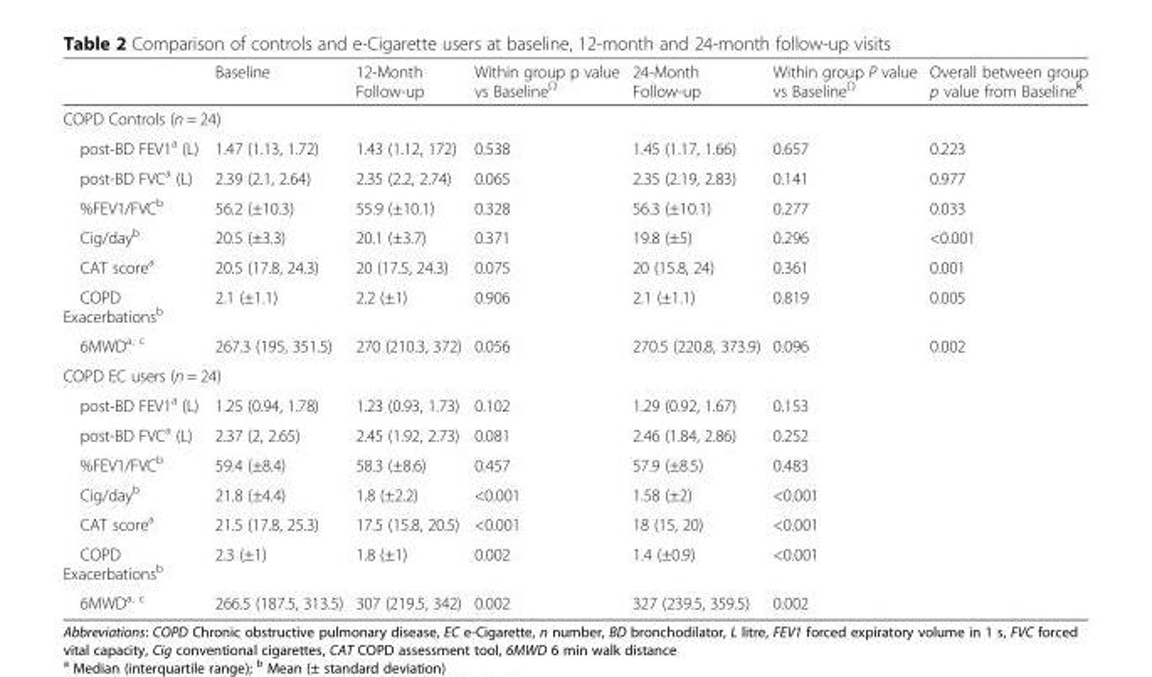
<table><thead><tr><td></td><td>Baseline</td><td>12-Month Follow-up</td><td>Within group p value vs Baseline<sup>Ω</sup></td><td>24-Month Follow-up</td><td>Within group P value vs Baseline<sup>Ω</sup></td><td>Overall between group p value from Baseline<sup>ƙ</sup></td></tr></thead><tbody><tr><td colspan="7">COPD Controls (n = 24)</td></tr><tr><td>post-BD FEV1<sup>a</sup> (L)</td><td>1.47 (1.13, 1.72)</td><td>1.43 (1.12, 172)</td><td>0.538</td><td>1.45 (1.17, 1.66)</td><td>0.657</td><td>0.223</td></tr><tr><td>post-BD FVC<sup>a</sup> (L)</td><td>2.39 (2.1, 2.64)</td><td>2.35 (2.2, 2.74)</td><td>0.065</td><td>2.35 (2.19, 2.83)</td><td>0.141</td><td>0.977</td></tr><tr><td>%FEV1/FVC<sup>b</sup></td><td>56.2 (±10.3)</td><td>55.9 (±10.1)</td><td>0.328</td><td>56.3 (±10.1)</td><td>0.277</td><td>0.033</td></tr><tr><td>Cig/day<sup>b</sup></td><td>20.5 (±3.3)</td><td>20.1 (±3.7)</td><td>0.371</td><td>19.8 (±5)</td><td>0.296</td><td>&lt;0.001</td></tr><tr><td>CAT score<sup>a</sup></td><td>20.5 (17.8, 24.3)</td><td>20 (17.5, 24.3)</td><td>0.075</td><td>20 (15.8, 24)</td><td>0.361</td><td>0.001</td></tr><tr><td>COPD Exacerbations<sup>b</sup></td><td>2.1 (±1.1)</td><td>2.2 (±1)</td><td>0.906</td><td>2.1 (±1.1)</td><td>0.819</td><td>0.005</td></tr><tr><td>6MWD<sup>a, c</sup></td><td>267.3 (195, 351.5)</td><td>270 (210.3, 372)</td><td>0.056</td><td>270.5 (220.8, 373.9)</td><td>0.096</td><td>0.002</td></tr><tr><td colspan="7">COPD EC users (n = 24)</td></tr><tr><td>post-BD FEV1<sup>a</sup> (L)</td><td>1.25 (0.94, 1.78)</td><td>1.23 (0.93, 1.73)</td><td>0.102</td><td>1.29 (0.92, 1.67)</td><td>0.153</td><td rowspan="7"></td></tr><tr><td>post-BD FVC<sup>a</sup> (L)</td><td>2.37 (2, 2.65)</td><td>2.45 (1.92, 2.73)</td><td>0.081</td><td>2.46 (1.84, 2.86)</td><td>0.252</td></tr><tr><td>%FEV1/FVC<sup>b</sup></td><td>59.4 (±8.4)</td><td>58.3 (±8.6)</td><td>0.457</td><td>57.9 (±8.5)</td><td>0.483</td></tr><tr><td>Cig/day<sup>b</sup></td><td>21.8 (±4.4)</td><td>1.8 (±2.2)</td><td>&lt;0.001</td><td>1.58 (±2)</td><td>&lt;0.001</td></tr><tr><td>CAT score<sup>a</sup></td><td>21.5 (17.8, 25.3)</td><td>17.5 (15.8, 20.5)</td><td>&lt;0.001</td><td>18 (15, 20)</td><td>&lt;0.001</td></tr><tr><td>COPD Exacerbations<sup>b</sup></td><td>2.3 (±1)</td><td>1.8 (±1)</td><td>0.002</td><td>1.4 (±0.9)</td><td>&lt;0.001</td></tr><tr><td>6MWD<sup>a, c</sup></td><td>266.5 (187.5, 313.5)</td><td>307 (219.5, 342)</td><td>0.002</td><td>327 (239.5, 359.5)</td><td>0.002</td></tr></tbody></table>